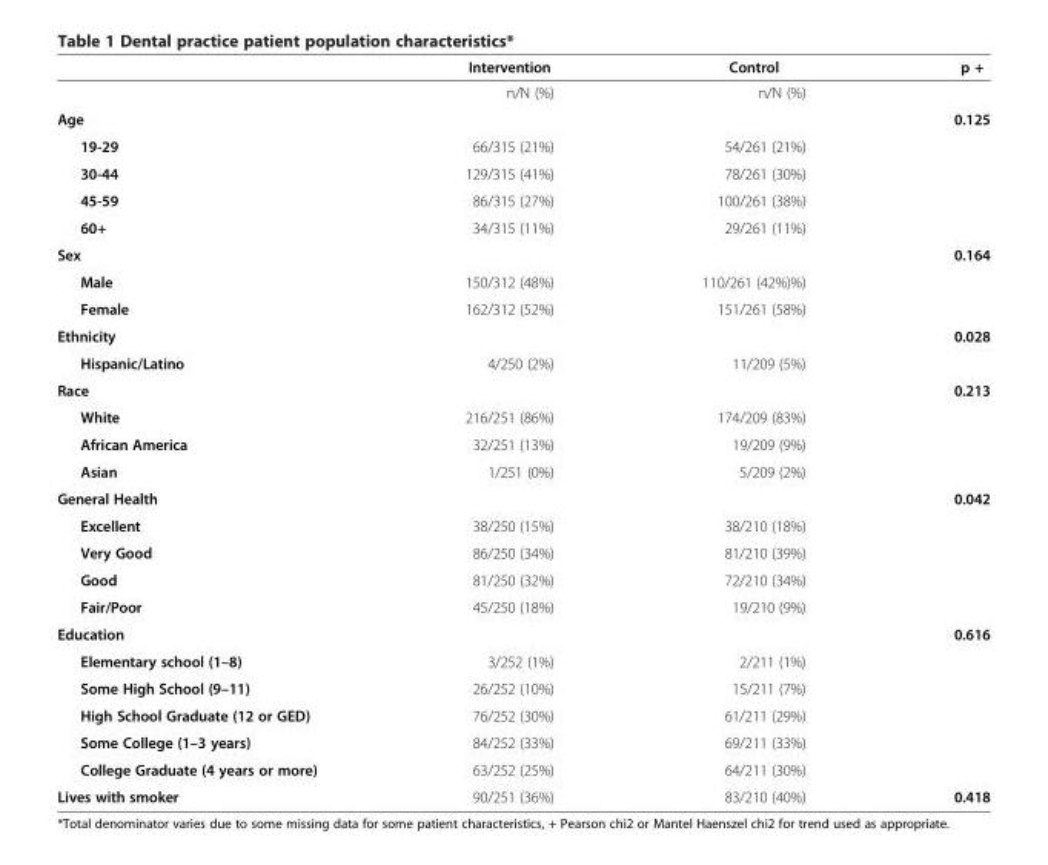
<table><thead><tr><td></td><td>Intervention</td><td>Control</td><td>p +</td></tr></thead><tbody><tr><td></td><td>n/N (%)</td><td>n/N (%)</td><td></td></tr><tr><td>Age</td><td></td><td></td><td>0.125</td></tr><tr><td>19-29</td><td>66/315 (21%)</td><td>54/261 (21%)</td><td></td></tr><tr><td>30-44</td><td>129/315 (41%)</td><td>78/261 (30%)</td><td></td></tr><tr><td>45-59</td><td>86/315 (27%)</td><td>100/261 (38%)</td><td></td></tr><tr><td>60+</td><td>34/315 (11%)</td><td>29/261 (11%)</td><td></td></tr><tr><td>Sex</td><td></td><td></td><td>0.164</td></tr><tr><td>Male</td><td>150/312 (48%)</td><td>110/261 (42%)%)</td><td></td></tr><tr><td>Female</td><td>162/312 (52%)</td><td>151/261 (58%)</td><td></td></tr><tr><td>Ethnicity</td><td></td><td></td><td>0.028</td></tr><tr><td>Hispanic/Latino</td><td>4/250 (2%)</td><td>11/209 (5%)</td><td></td></tr><tr><td>Race</td><td></td><td></td><td>0.213</td></tr><tr><td>White</td><td>216/251 (86%)</td><td>174/209 (83%)</td><td></td></tr><tr><td>African America</td><td>32/251 (13%)</td><td>19/209 (9%)</td><td></td></tr><tr><td>Asian</td><td>1/251 (0%)</td><td>5/209 (2%)</td><td></td></tr><tr><td>General Health</td><td></td><td></td><td>0.042</td></tr><tr><td>Excellent</td><td>38/250 (15%)</td><td>38/210 (18%)</td><td></td></tr><tr><td>Very Good</td><td>86/250 (34%)</td><td>81/210 (39%)</td><td></td></tr><tr><td>Good</td><td>81/250 (32%)</td><td>72/210 (34%)</td><td></td></tr><tr><td>Fair/Poor</td><td>45/250 (18%)</td><td>19/210 (9%)</td><td></td></tr><tr><td>Education</td><td></td><td></td><td>0.616</td></tr><tr><td>Elementary school (1–8)</td><td>3/252 (1%)</td><td>2/211 (1%)</td><td></td></tr><tr><td>Some High School (9–11)</td><td>26/252 (10%)</td><td>15/211 (7%)</td><td></td></tr><tr><td>High School Graduate (12 or GED)</td><td>76/252 (30%)</td><td>61/211 (29%)</td><td></td></tr><tr><td>Some College (1–3 years)</td><td>84/252 (33%)</td><td>69/211 (33%)</td><td></td></tr><tr><td>College Graduate (4 years or more)</td><td>63/252 (25%)</td><td>64/211 (30%)</td><td></td></tr><tr><td>Lives with smoker</td><td>90/251 (36%)</td><td>83/210 (40%)</td><td>0.418</td></tr></tbody></table>